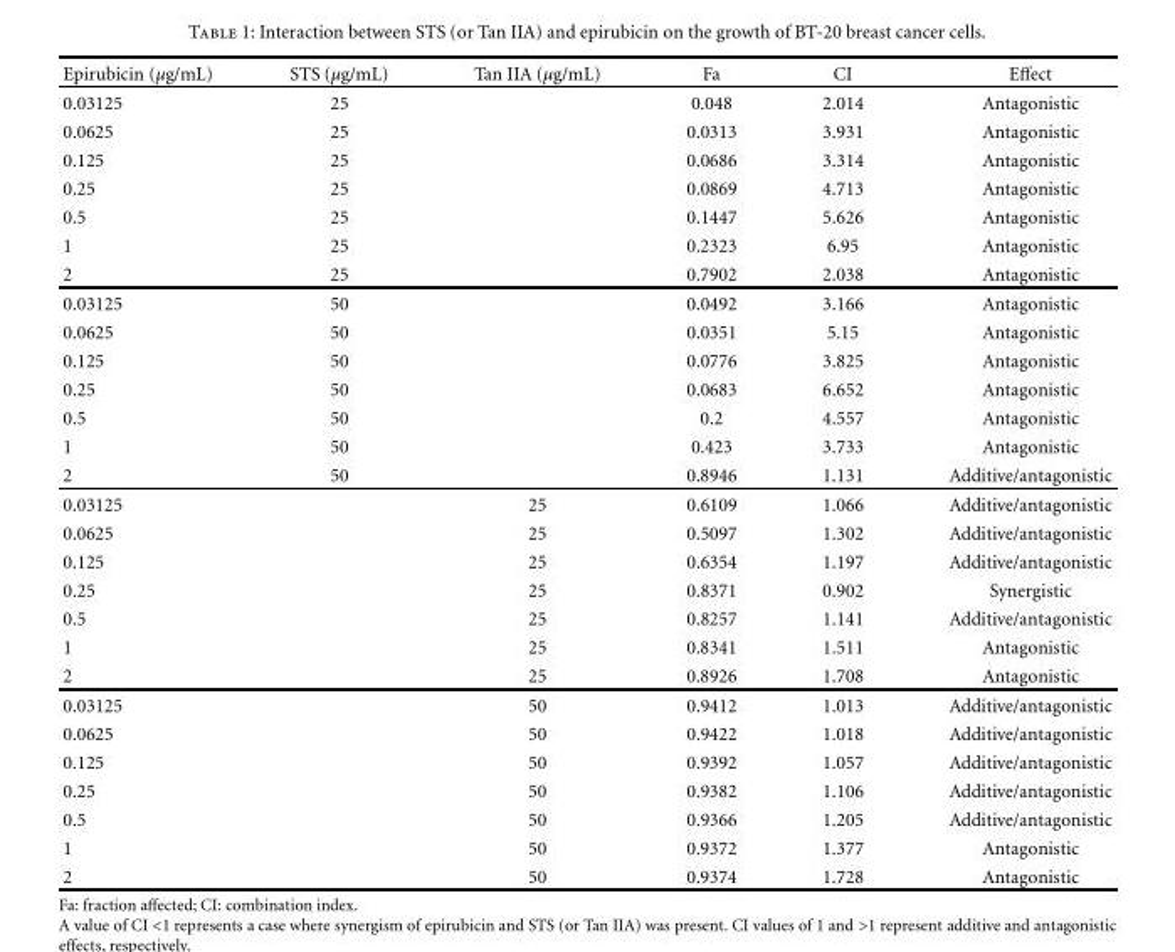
<table><thead><tr><td>Epirubicin (μg/mL)</td><td>STS (μg/mL)</td><td>Tan IIA (μg/mL)</td><td>Fa</td><td>CI</td><td>Effect</td></tr></thead><tbody><tr><td>0.03125</td><td>25</td><td></td><td>0.048</td><td>2.014</td><td>Antagonistic</td></tr><tr><td>0.0625</td><td>25</td><td></td><td>0.0313</td><td>3.931</td><td>Antagonistic</td></tr><tr><td>0.125</td><td>25</td><td></td><td>0.0686</td><td>3.314</td><td>Antagonistic</td></tr><tr><td>0.25</td><td>25</td><td></td><td>0.0869</td><td>4.713</td><td>Antagonistic</td></tr><tr><td>0.5</td><td>25</td><td></td><td>0.1447</td><td>5.626</td><td>Antagonistic</td></tr><tr><td>1</td><td>25</td><td></td><td>0.2323</td><td>6.95</td><td>Antagonistic</td></tr><tr><td>2</td><td>25</td><td></td><td>0.7902</td><td>2.038</td><td>Antagonistic</td></tr><tr><td>0.03125</td><td>50</td><td></td><td>0.0492</td><td>3.166</td><td>Antagonistic</td></tr><tr><td>0.0625</td><td>50</td><td></td><td>0.0351</td><td>5.15</td><td>Antagonistic</td></tr><tr><td>0.125</td><td>50</td><td></td><td>0.0776</td><td>3.825</td><td>Antagonistic</td></tr><tr><td>0.25</td><td>50</td><td></td><td>0.0683</td><td>6.652</td><td>Antagonistic</td></tr><tr><td>0.5</td><td>50</td><td></td><td>0.2</td><td>4.557</td><td>Antagonistic</td></tr><tr><td>1</td><td>50</td><td></td><td>0.423</td><td>3.733</td><td>Antagonistic</td></tr><tr><td>2</td><td>50</td><td></td><td>0.8946</td><td>1.131</td><td>Additive/antagonistic</td></tr><tr><td>0.03125</td><td></td><td>25</td><td>0.6109</td><td>1.066</td><td>Additive/antagonistic</td></tr><tr><td>0.0625</td><td></td><td>25</td><td>0.5097</td><td>1.302</td><td>Additive/antagonistic</td></tr><tr><td>0.125</td><td></td><td>25</td><td>0.6354</td><td>1.197</td><td>Additive/antagonistic</td></tr><tr><td>0.25</td><td></td><td>25</td><td>0.8371</td><td>0.902</td><td>Synergistic</td></tr><tr><td>0.5</td><td></td><td>25</td><td>0.8257</td><td>1.141</td><td>Additive/antagonistic</td></tr><tr><td>1</td><td></td><td>25</td><td>0.8341</td><td>1.511</td><td>Antagonistic</td></tr><tr><td>2</td><td></td><td>25</td><td>0.8926</td><td>1.708</td><td>Antagonistic</td></tr><tr><td>0.03125</td><td></td><td>50</td><td>0.9412</td><td>1.013</td><td>Additive/antagonistic</td></tr><tr><td>0.0625</td><td></td><td>50</td><td>0.9422</td><td>1.018</td><td>Additive/antagonistic</td></tr><tr><td>0.125</td><td></td><td>50</td><td>0.9392</td><td>1.057</td><td>Additive/antagonistic</td></tr><tr><td>0.25</td><td></td><td>50</td><td>0.9382</td><td>1.106</td><td>Additive/antagonistic</td></tr><tr><td>0.5</td><td></td><td>50</td><td>0.9366</td><td>1.205</td><td>Additive/antagonistic</td></tr><tr><td>1</td><td></td><td>50</td><td>0.9372</td><td>1.377</td><td>Antagonistic</td></tr><tr><td>2</td><td></td><td>50</td><td>0.9374</td><td>1.728</td><td>Antagonistic</td></tr></tbody></table>